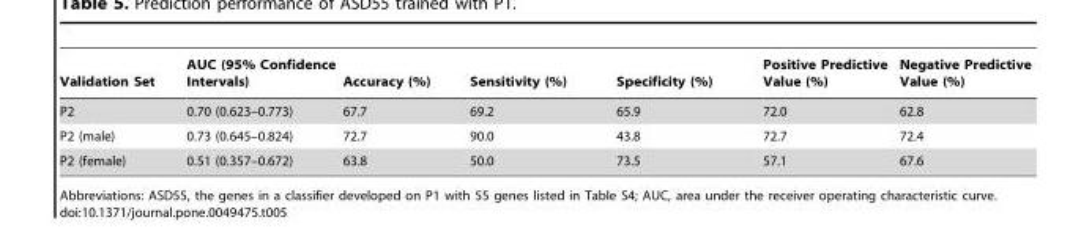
<table><thead><tr><td>Validation Set</td><td>AUC (95% Confidence Intervals)</td><td>Accuracy (%)</td><td>Sensitivity (%)</td><td>Specificity (%)</td><td>Positive Predictive Value (%)</td><td>Negative Predictive Value (%)</td></tr></thead><tbody><tr><td>P2</td><td>0.70 (0.623–0.773)</td><td>67.7</td><td>69.2</td><td>65.9</td><td>72.0</td><td>62.8</td></tr><tr><td>P2 (male)</td><td>0.73 (0.645–0.824)</td><td>72.7</td><td>90.0</td><td>43.8</td><td>72.7</td><td>72.4</td></tr><tr><td>P2 (female)</td><td>0.51 (0.357–0.672)</td><td>63.8</td><td>50.0</td><td>73.5</td><td>57.1</td><td>67.6</td></tr></tbody></table>